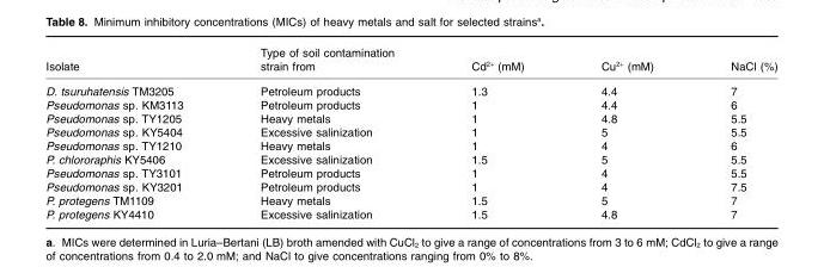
<table><thead><tr><td>Isolate</td><td>Type of soil contamination strain from</td><td>Cd<sup>2+</sup> (mM)</td><td>Cu<sup>2+</sup> (mM)</td><td>NaCl (%)</td></tr></thead><tbody><tr><td>D. tsuruhatensis TM3205</td><td>Petroleum products</td><td>1.3</td><td>4.4</td><td>7</td></tr><tr><td>Pseudomonas sp. KM3113</td><td>Petroleum products</td><td>1</td><td>4.4</td><td>6</td></tr><tr><td>Pseudomonas sp. TY1205</td><td>Heavy metals</td><td>1</td><td>4.8</td><td>5.5</td></tr><tr><td>Pseudomonas sp. KY5404</td><td>Excessive salinization</td><td>1</td><td>5</td><td>5.5</td></tr><tr><td>Pseudomonas sp. TY1210</td><td>Heavy metals</td><td>1</td><td>4</td><td>6</td></tr><tr><td>P. chlororaphis KY5406</td><td>Excessive salinization</td><td>1.5</td><td>5</td><td>5.5</td></tr><tr><td>Pseudomonas sp. TY3101</td><td>Petroleum products</td><td>1</td><td>4</td><td>5.5</td></tr><tr><td>Pseudomonas sp. KY3201</td><td>Petroleum products</td><td>1</td><td>4</td><td>7.5</td></tr><tr><td>P. protegens TM1109</td><td>Heavy metals</td><td>1.5</td><td>5</td><td>7</td></tr><tr><td>P. protegens KY4410</td><td>Excessive salinization</td><td>1.5</td><td>4.8</td><td>7</td></tr></tbody></table>